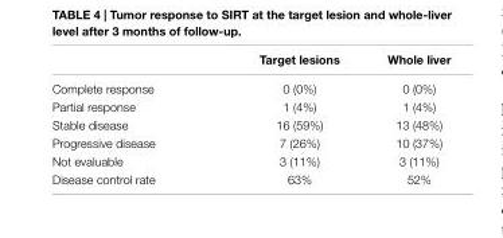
<table><thead><tr><td></td><td>Target lesions</td><td>Whole liver</td></tr></thead><tbody><tr><td>Complete response</td><td>0 (0%)</td><td>0 (0%)</td></tr><tr><td>Partial response</td><td>1 (4%)</td><td>1 (4%)</td></tr><tr><td>Stable disease</td><td>16 (59%)</td><td>13 (48%)</td></tr><tr><td>Progressive disease</td><td>7 (26%)</td><td>10 (37%)</td></tr><tr><td>Not evaluable</td><td>3 (11%)</td><td>3 (11%)</td></tr><tr><td>Disease control rate</td><td>63%</td><td>52%</td></tr></tbody></table>